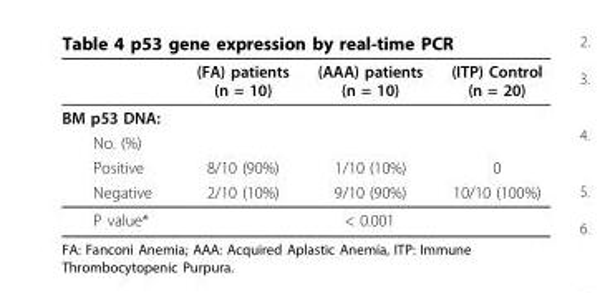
<table><thead><tr><td></td><td>(FA) patients (n = 10)</td><td>(AAA) patients (n = 10)</td><td>(ITP) Control (n = 20)</td></tr></thead><tbody><tr><td colspan="4">BM p53 DNA:</td></tr><tr><td colspan="4">No. (%)</td></tr><tr><td>Positive</td><td>8/10 (90%)</td><td>1/10 (10%)</td><td>0</td></tr><tr><td>Negative</td><td>2/10 (10%)</td><td>9/10 (90%)</td><td>10/10 (100%)</td></tr><tr><td>P value*</td><td colspan="3">&lt; 0.001</td></tr></tbody></table>